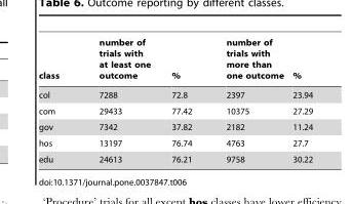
<table><thead><tr><td>class</td><td>number of trials with at least one outcome</td><td>%</td><td>number of trials with more than one outcome</td><td>%</td></tr></thead><tbody><tr><td>col</td><td>7288</td><td>72.8</td><td>2397</td><td>23.94</td></tr><tr><td>com</td><td>29433</td><td>77.42</td><td>10375</td><td>27.29</td></tr><tr><td>gov</td><td>7342</td><td>37.82</td><td>2182</td><td>11.24</td></tr><tr><td>hos</td><td>13197</td><td>76.74</td><td>4763</td><td>27.7</td></tr><tr><td>edu</td><td>24613</td><td>76.21</td><td>9758</td><td>30.22</td></tr></tbody></table>